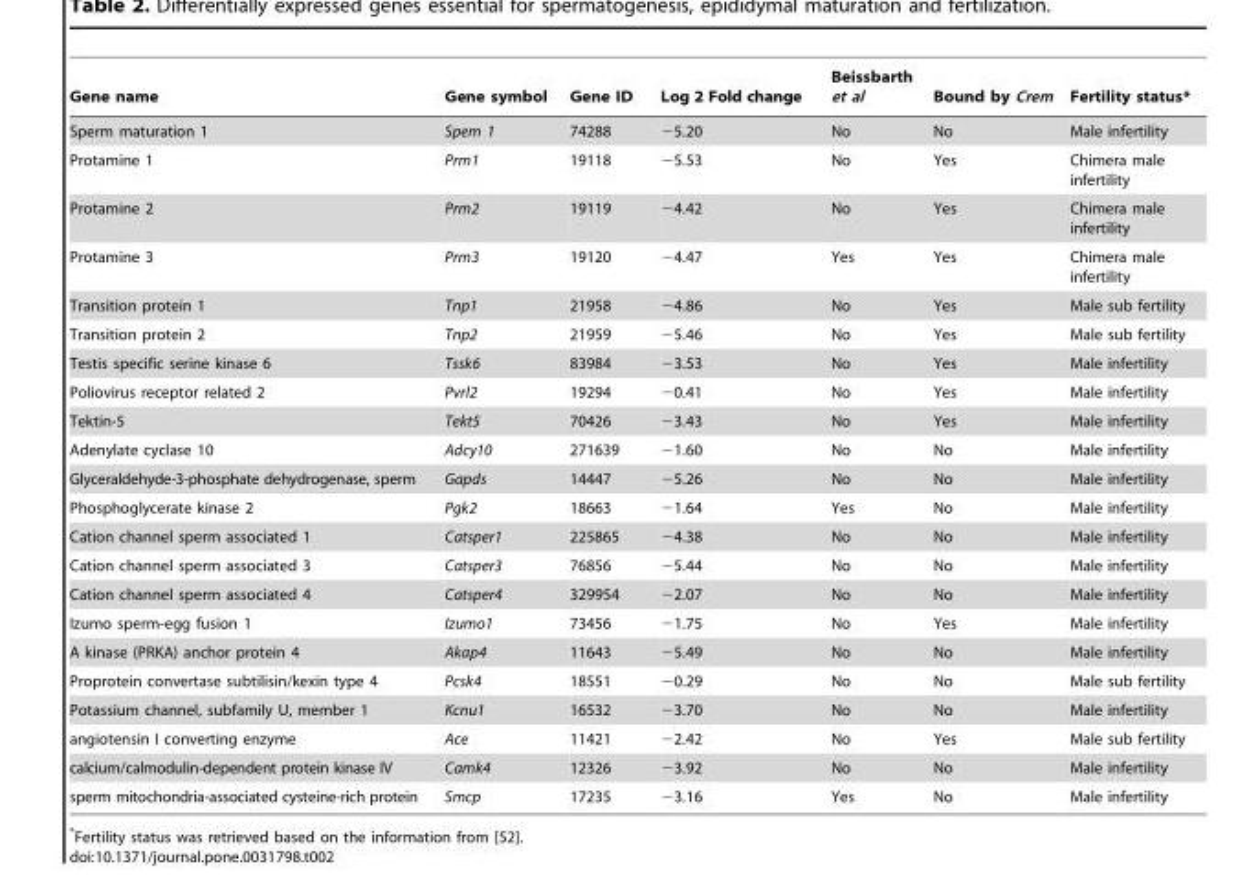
<table><thead><tr><td>Gene name</td><td>Gene symbol</td><td>Gene ID</td><td>Log 2 Fold change</td><td>Beissbarth et al</td><td>Bound by Crem</td><td>Fertility status*</td></tr></thead><tbody><tr><td>Sperm maturation 1</td><td>Spem 1</td><td>74288</td><td>−5.20</td><td>No</td><td>No</td><td>Male infertility</td></tr><tr><td>Protamine 1</td><td>Prm1</td><td>19118</td><td>−5.53</td><td>No</td><td>Yes</td><td>Chimera male infertility</td></tr><tr><td>Protamine 2</td><td>Prm2</td><td>19119</td><td>−4.42</td><td>No</td><td>Yes</td><td>Chimera male infertility</td></tr><tr><td>Protamine 3</td><td>Prm3</td><td>19120</td><td>−4.47</td><td>Yes</td><td>Yes</td><td>Chimera male infertility</td></tr><tr><td>Transition protein 1</td><td>Tnp1</td><td>21958</td><td>−4.86</td><td>No</td><td>Yes</td><td>Male sub fertility</td></tr><tr><td>Transition protein 2</td><td>Tnp2</td><td>21959</td><td>−5.46</td><td>No</td><td>Yes</td><td>Male sub fertility</td></tr><tr><td>Testis specific serine kinase 6</td><td>Tssk6</td><td>83984</td><td>−3.53</td><td>No</td><td>Yes</td><td>Male infertility</td></tr><tr><td>Poliovirus receptor related 2</td><td>Pvrl2</td><td>19294</td><td>−0.41</td><td>No</td><td>Yes</td><td>Male infertility</td></tr><tr><td>Tektin-5</td><td>Tekt5</td><td>70426</td><td>−3.43</td><td>No</td><td>Yes</td><td>Male infertility</td></tr><tr><td>Adenylate cyclase 10</td><td>Adcy10</td><td>271639</td><td>−1.60</td><td>No</td><td>No</td><td>Male infertility</td></tr><tr><td>Glyceraldehyde-3-phosphate dehydrogenase, sperm</td><td>Gapds</td><td>14447</td><td>−5.26</td><td>No</td><td>No</td><td>Male infertility</td></tr><tr><td>Phosphoglycerate kinase 2</td><td>Pgk2</td><td>18663</td><td>−1.64</td><td>Yes</td><td>No</td><td>Male infertility</td></tr><tr><td>Cation channel sperm associated 1</td><td>Catsper1</td><td>225865</td><td>−4.38</td><td>No</td><td>No</td><td>Male infertility</td></tr><tr><td>Cation channel sperm associated 3</td><td>Catsper3</td><td>76856</td><td>−5.44</td><td>No</td><td>No</td><td>Male infertility</td></tr><tr><td>Cation channel sperm associated 4</td><td>Catsper4</td><td>329954</td><td>−2.07</td><td>No</td><td>No</td><td>Male infertility</td></tr><tr><td>Izumo sperm-egg fusion 1</td><td>Izumo1</td><td>73456</td><td>−1.75</td><td>No</td><td>Yes</td><td>Male infertility</td></tr><tr><td>A kinase (PRKA) anchor protein 4</td><td>Akap4</td><td>11643</td><td>−5.49</td><td>No</td><td>No</td><td>Male infertility</td></tr><tr><td>Proprotein convertase subtilisin/kexin type 4</td><td>Pcsk4</td><td>18551</td><td>−0.29</td><td>No</td><td>No</td><td>Male sub fertility</td></tr><tr><td>Potassium channel, subfamily U, member 1</td><td>Kcnu1</td><td>16532</td><td>−3.70</td><td>No</td><td>No</td><td>Male infertility</td></tr><tr><td>angiotensin I converting enzyme</td><td>Ace</td><td>11421</td><td>−2.42</td><td>No</td><td>Yes</td><td>Male sub fertility</td></tr><tr><td>calcium/calmodulin-dependent protein kinase IV</td><td>Camk4</td><td>12326</td><td>−3.92</td><td>No</td><td>No</td><td>Male infertility</td></tr><tr><td>sperm mitochondria-associated cysteine-rich protein</td><td>Smcp</td><td>17235</td><td>−3.16</td><td>Yes</td><td>No</td><td>Male infertility</td></tr></tbody></table>